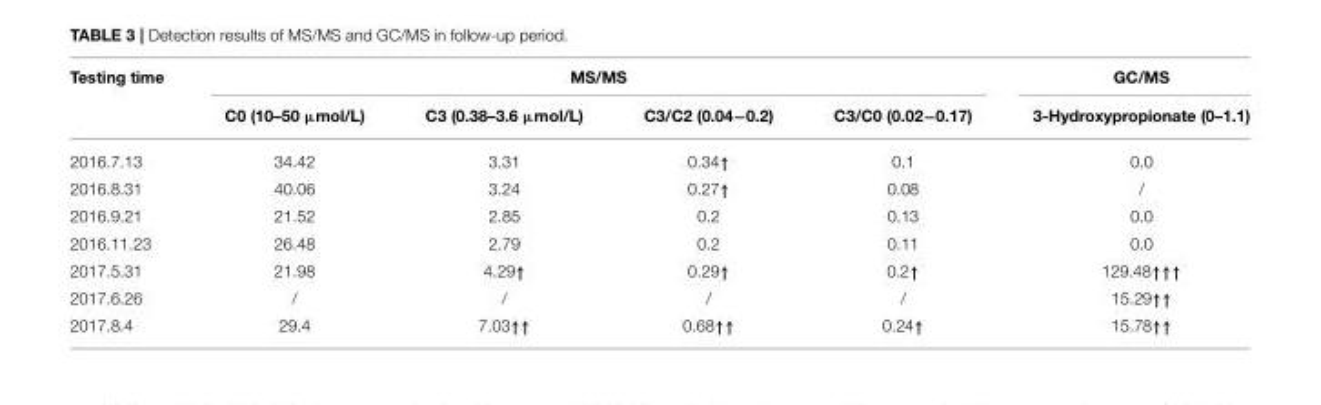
<table><thead><tr><td rowspan="2">Testing time</td><td colspan="4">MS/MS</td><td rowspan="2">GC/MS 3-Hydroxypropionate (0–1.1)</td></tr><tr><td>C0 (10–50 µmol/L)</td><td>C3 (0.38–3.6 µmol/L)</td><td>C3/C2 (0.04−0.2)</td><td>C3/C0 (0.02−0.17)</td></tr></thead><tbody><tr><td>2016.7.13</td><td>34.42</td><td>3.31</td><td>0.34↑</td><td>0.1</td><td>0.0</td></tr><tr><td>2016.8.31</td><td>40.06</td><td>3.24</td><td>0.27↑</td><td>0.08</td><td>/</td></tr><tr><td>2016.9.21</td><td>21.52</td><td>2.85</td><td>0.2</td><td>0.13</td><td>0.0</td></tr><tr><td>2016.11.23</td><td>26.48</td><td>2.79</td><td>0.2</td><td>0.11</td><td>0.0</td></tr><tr><td>2017.5.31</td><td>21.98</td><td>4.29↑</td><td>0.29↑</td><td>0.2↑</td><td>129.48↑↑↑</td></tr><tr><td>2017.6.26</td><td>/</td><td>/</td><td>/</td><td>/</td><td>15.29↑↑</td></tr><tr><td>2017.8.4</td><td>29.4</td><td>7.03↑↑</td><td>0.68↑↑</td><td>0.24↑</td><td>15.78↑↑</td></tr></tbody></table>